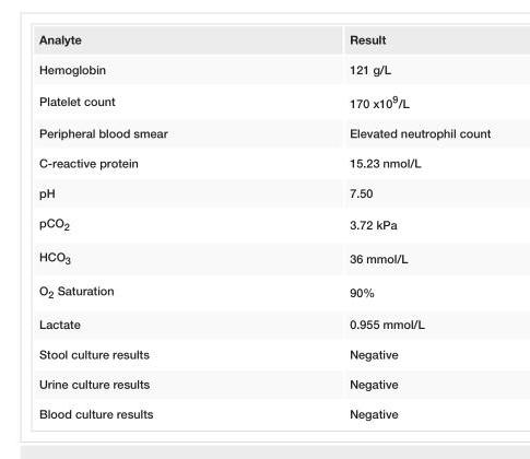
<table><tbody><tr><td>Analyte</td><td>Result</td></tr><tr><td>Hemoglobin</td><td>121 g/L</td></tr><tr><td>Platelet count</td><td>170 x10<sup>9</sup>/L</td></tr><tr><td>Peripheral blood smear</td><td>Elevated neutrophil count</td></tr><tr><td>C-reactive protein</td><td>15.23 nmol/L</td></tr><tr><td>pH</td><td>7.50</td></tr><tr><td>pCO<sub>2</sub></td><td>3.72 kPa</td></tr><tr><td>HCO<sub>3</sub></td><td>36 mmol/L</td></tr><tr><td>O<sub>2</sub> Saturation</td><td>90%</td></tr><tr><td>Lactate</td><td>0.955 mmol/L</td></tr><tr><td>Stool culture results</td><td>Negative</td></tr><tr><td>Urine culture results</td><td>Negative</td></tr><tr><td>Blood culture results</td><td>Negative</td></tr></tbody></table>